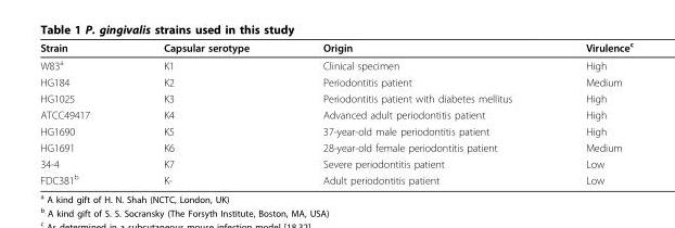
<table><thead><tr><td>Strain</td><td>Capsular serotype</td><td>Origin</td><td>Virulence<sup>c</sup></td></tr></thead><tbody><tr><td>W83<sup>a</sup></td><td>K1</td><td>Clinical specimen</td><td>High</td></tr><tr><td>HG184</td><td>K2</td><td>Periodontitis patient</td><td>Medium</td></tr><tr><td>HG1025</td><td>K3</td><td>Periodontitis patient with diabetes mellitus</td><td>High</td></tr><tr><td>ATCC49417</td><td>K4</td><td>Advanced adult periodontitis patient</td><td>High</td></tr><tr><td>HG1690</td><td>K5</td><td>37-year-old male periodontitis patient</td><td>High</td></tr><tr><td>HG1691</td><td>K6</td><td>28-year-old female periodontitis patient</td><td>Medium</td></tr><tr><td>34-4</td><td>K7</td><td>Severe periodontitis patient</td><td>Low</td></tr><tr><td>FDC381<sup>b</sup></td><td>K-</td><td>Adult periodontitis patient</td><td>Low</td></tr></tbody></table>